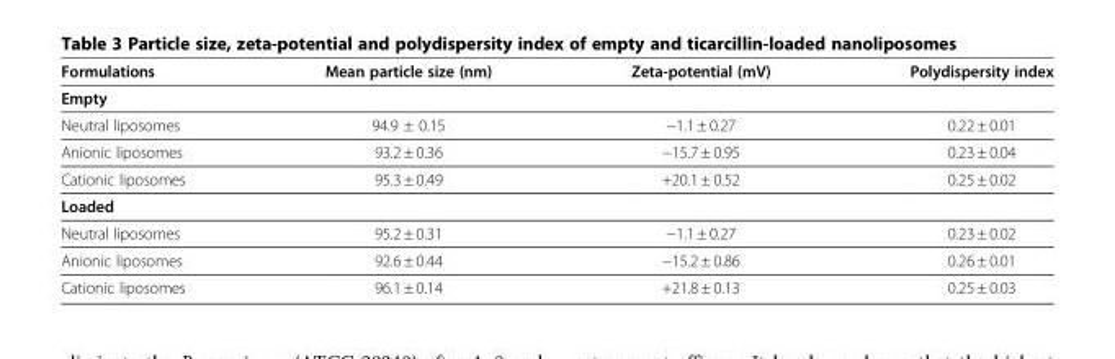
<table><thead><tr><td>Formulations</td><td>Mean particle size (nm)</td><td>Zeta-potential (mV)</td><td>Polydispersity index</td></tr></thead><tbody><tr><td colspan="4">Empty</td></tr><tr><td>Neutral liposomes</td><td>94.9 ± 0.15</td><td>−1.1 ± 0.27</td><td>0.22 ± 0.01</td></tr><tr><td>Anionic liposomes</td><td>93.2 ± 0.36</td><td>−15.7 ± 0.95</td><td>0.23 ± 0.04</td></tr><tr><td>Cationic liposomes</td><td>95.3 ± 0.49</td><td>+20.1 ± 0.52</td><td>0.25 ± 0.02</td></tr><tr><td colspan="4">Loaded</td></tr><tr><td>Neutral liposomes</td><td>95.2 ± 0.31</td><td>−1.1 ± 0.27</td><td>0.23 ± 0.02</td></tr><tr><td>Anionic liposomes</td><td>92.6 ± 0.44</td><td>−15.2 ± 0.86</td><td>0.26 ± 0.01</td></tr><tr><td>Cationic liposomes</td><td>96.1 ± 0.14</td><td>+21.8 ± 0.13</td><td>0.25 ± 0.03</td></tr></tbody></table>